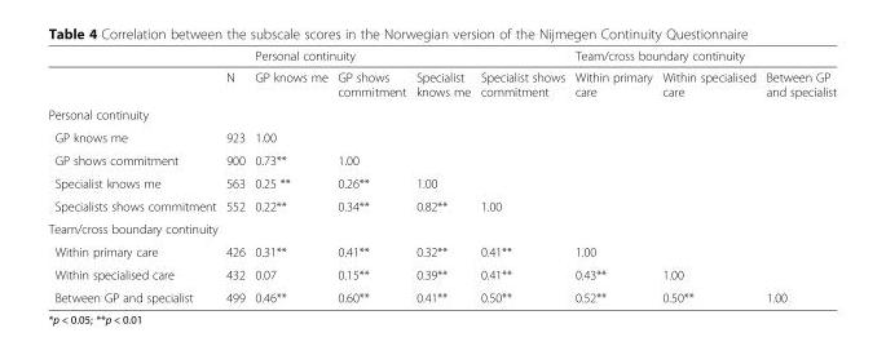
<table><thead><tr><td rowspan="2"></td><td rowspan="2">N</td><td colspan="4">Personal continuity</td><td colspan="3">Team/cross boundary continuity</td></tr><tr><td>GP knows me</td><td>GP shows commitment</td><td>Specialist knows me</td><td>Specialist shows commitment</td><td>Within primary care</td><td>Within specialised care</td><td>Between GP and specialist</td></tr></thead><tbody><tr><td colspan="9">Personal continuity</td></tr><tr><td>GP knows me</td><td>923</td><td>1.00</td><td></td><td></td><td></td><td></td><td></td><td></td></tr><tr><td>GP shows commitment</td><td>900</td><td>0.73**</td><td>1.00</td><td></td><td></td><td></td><td></td><td></td></tr><tr><td>Specialist knows me</td><td>563</td><td>0.25 **</td><td>0.26**</td><td>1.00</td><td></td><td></td><td></td><td></td></tr><tr><td>Specialists shows commitment</td><td>552</td><td>0.22**</td><td>0.34**</td><td>0.82**</td><td>1.00</td><td></td><td></td><td></td></tr><tr><td colspan="9">Team/cross boundary continuity</td></tr><tr><td>Within primary care</td><td>426</td><td>0.31**</td><td>0.41**</td><td>0.32**</td><td>0.41**</td><td>1.00</td><td></td><td></td></tr><tr><td>Within specialised care</td><td>432</td><td>0.07</td><td>0.15**</td><td>0.39**</td><td>0.41**</td><td>0.43**</td><td>1.00</td><td></td></tr><tr><td>Between GP and specialist</td><td>499</td><td>0.46**</td><td>0.60**</td><td>0.41**</td><td>0.50**</td><td>0.52**</td><td>0.50**</td><td>1.00</td></tr></tbody></table>